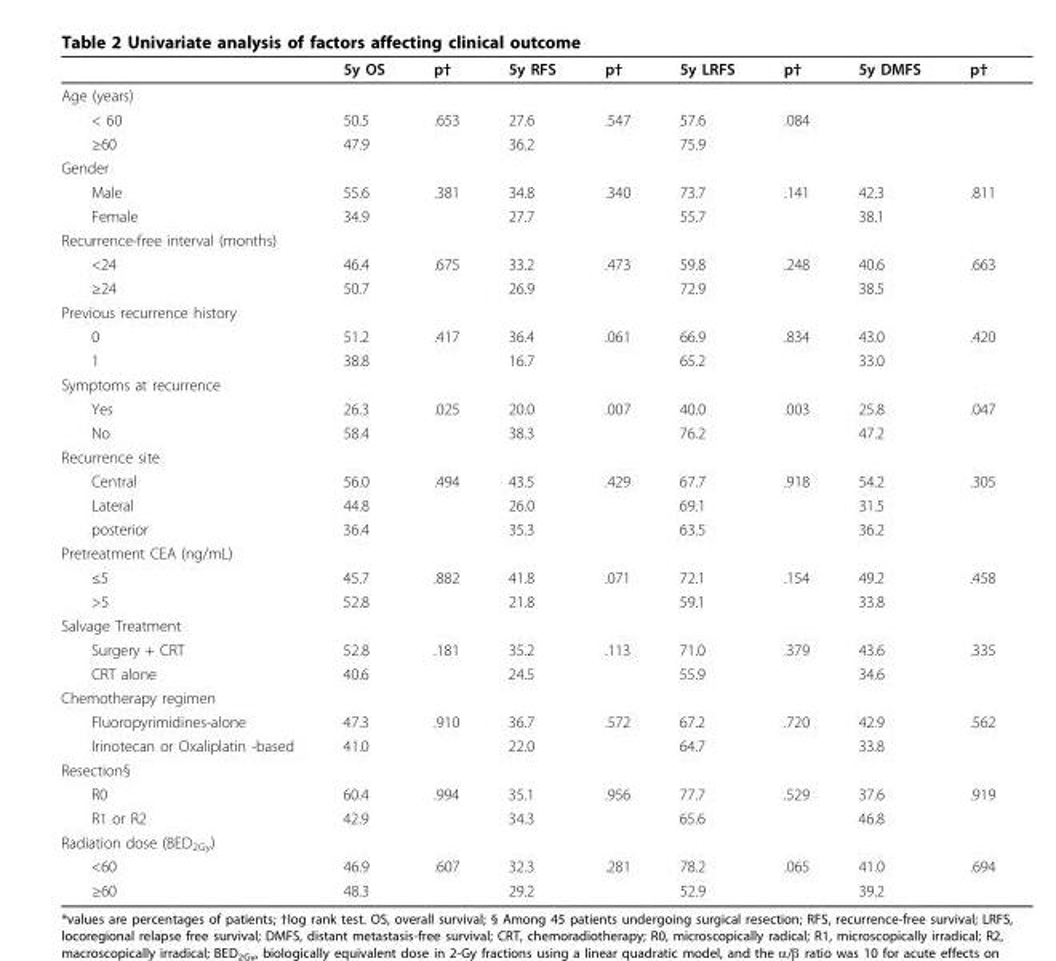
<table><thead><tr><td></td><td>5y OS</td><td>p†</td><td>5y RFS</td><td>p†</td><td>5y LRFS</td><td>p†</td><td>5y DMFS</td><td>p†</td></tr></thead><tbody><tr><td colspan="9">Age (years)</td></tr><tr><td>&lt; 60</td><td>50.5</td><td>.653</td><td>27.6</td><td>.547</td><td>57.6</td><td>.084</td><td></td><td></td></tr><tr><td>≥60</td><td>47.9</td><td></td><td>36.2</td><td></td><td>75.9</td><td></td><td></td><td></td></tr><tr><td colspan="9">Gender</td></tr><tr><td>Male</td><td>55.6</td><td>.381</td><td>34.8</td><td>.340</td><td>73.7</td><td>.141</td><td>42.3</td><td>.811</td></tr><tr><td>Female</td><td>34.9</td><td></td><td>27.7</td><td></td><td>55.7</td><td></td><td>38.1</td><td></td></tr><tr><td colspan="9">Recurrence-free interval (months)</td></tr><tr><td>&lt;24</td><td>46.4</td><td>.675</td><td>33.2</td><td>.473</td><td>59.8</td><td>.248</td><td>40.6</td><td>.663</td></tr><tr><td>≥24</td><td>50.7</td><td></td><td>26.9</td><td></td><td>72.9</td><td></td><td>38.5</td><td></td></tr><tr><td colspan="9">Previous recurrence history</td></tr><tr><td>0</td><td>51.2</td><td>.417</td><td>36.4</td><td>.061</td><td>66.9</td><td>.834</td><td>43.0</td><td>.420</td></tr><tr><td>1</td><td>38.8</td><td></td><td>16.7</td><td></td><td>65.2</td><td></td><td>33.0</td><td></td></tr><tr><td colspan="9">Symptoms at recurrence</td></tr><tr><td>Yes</td><td>26.3</td><td>.025</td><td>20.0</td><td>.007</td><td>40.0</td><td>.003</td><td>25.8</td><td>.047</td></tr><tr><td>No</td><td>58.4</td><td></td><td>38.3</td><td></td><td>76.2</td><td></td><td>47.2</td><td></td></tr><tr><td colspan="9">Recurrence site</td></tr><tr><td>Central</td><td>56.0</td><td>.494</td><td>43.5</td><td>.429</td><td>67.7</td><td>.918</td><td>54.2</td><td>.305</td></tr><tr><td>Lateral</td><td>44.8</td><td></td><td>26.0</td><td></td><td>69.1</td><td></td><td>31.5</td><td></td></tr><tr><td>posterior</td><td>36.4</td><td></td><td>35.3</td><td></td><td>63.5</td><td></td><td>36.2</td><td></td></tr><tr><td colspan="9">Pretreatment CEA (ng/mL)</td></tr><tr><td>≤5</td><td>45.7</td><td>.882</td><td>41.8</td><td>.071</td><td>72.1</td><td>.154</td><td>49.2</td><td>.458</td></tr><tr><td>&gt;5</td><td>52.8</td><td></td><td>21.8</td><td></td><td>59.1</td><td></td><td>33.8</td><td></td></tr><tr><td colspan="9">Salvage Treatment</td></tr><tr><td>Surgery + CRT</td><td>52.8</td><td>.181</td><td>35.2</td><td>.113</td><td>71.0</td><td>.379</td><td>43.6</td><td>.335</td></tr><tr><td>CRT alone</td><td>40.6</td><td></td><td>24.5</td><td></td><td>55.9</td><td></td><td>34.6</td><td></td></tr><tr><td colspan="9">Chemotherapy regimen</td></tr><tr><td>Fluoropyrimidines-alone</td><td>47.3</td><td>.910</td><td>36.7</td><td>.572</td><td>67.2</td><td>.720</td><td>42.9</td><td>.562</td></tr><tr><td>Irinotecan or Oxaliplatin -based</td><td>41.0</td><td></td><td>22.0</td><td></td><td>64.7</td><td></td><td>33.8</td><td></td></tr><tr><td colspan="9">Resection§</td></tr><tr><td>R0</td><td>60.4</td><td>.994</td><td>35.1</td><td>.956</td><td>77.7</td><td>.529</td><td>37.6</td><td>.919</td></tr><tr><td>R1 or R2</td><td>42.9</td><td></td><td>34.3</td><td></td><td>65.6</td><td></td><td>46.8</td><td></td></tr><tr><td colspan="9">Radiation dose (BED<sub>2Gy</sub>)</td></tr><tr><td>&lt;60</td><td>46.9</td><td>.607</td><td>32.3</td><td>.281</td><td>78.2</td><td>.065</td><td>41.0</td><td>.694</td></tr><tr><td>≥60</td><td>48.3</td><td></td><td>29.2</td><td></td><td>52.9</td><td></td><td>39.2</td><td></td></tr></tbody></table>